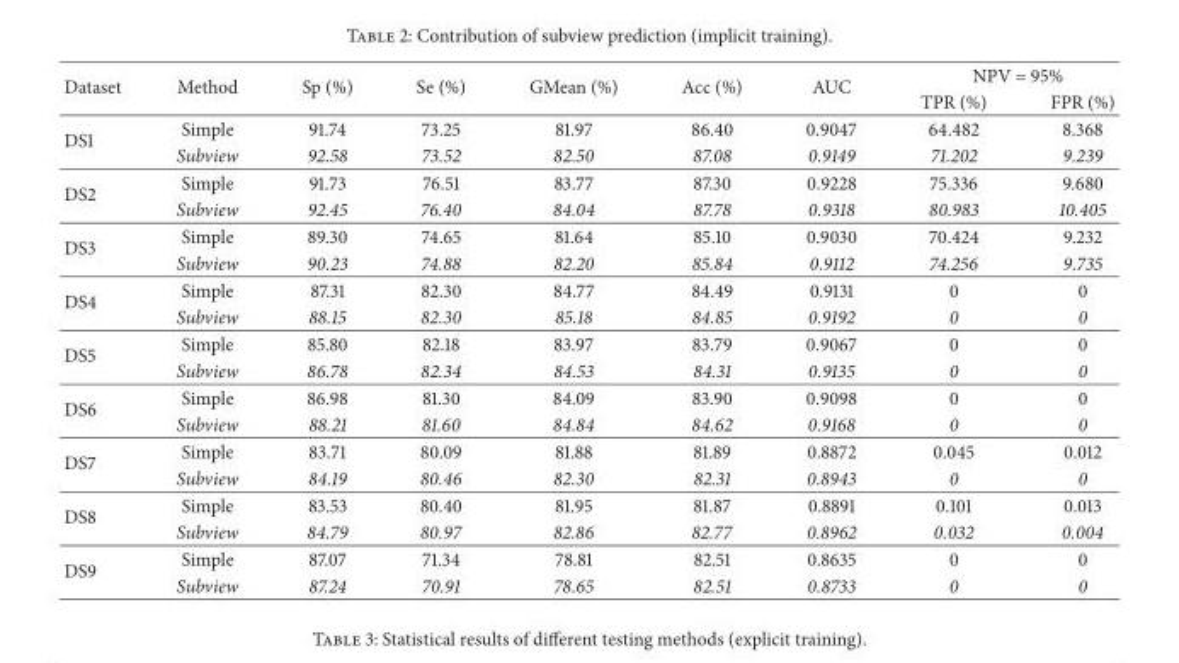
<table><thead><tr><td rowspan="2">Dataset</td><td rowspan="2">Method</td><td rowspan="2">Sp (%)</td><td rowspan="2">Se (%)</td><td rowspan="2">GMean (%)</td><td rowspan="2">Acc (%)</td><td rowspan="2">AUC</td><td colspan="2">NPV = 95%</td></tr><tr><td>TPR (%)</td><td>FPR (%)</td></tr></thead><tbody><tr><td rowspan="2">DS1</td><td>Simple</td><td>91.74</td><td>73.25</td><td>81.97</td><td>86.40</td><td>0.9047</td><td>64.482</td><td>8.368</td></tr><tr><td>Subview</td><td>92.58</td><td>73.52</td><td>82.50</td><td>87.08</td><td>0.9149</td><td>71.202</td><td>9.239</td></tr><tr><td rowspan="2">DS2</td><td>Simple</td><td>91.73</td><td>76.51</td><td>83.77</td><td>87.30</td><td>0.9228</td><td>75.336</td><td>9.680</td></tr><tr><td>Subview</td><td>92.45</td><td>76.40</td><td>84.04</td><td>87.78</td><td>0.9318</td><td>80.983</td><td>10.405</td></tr><tr><td rowspan="2">DS3</td><td>Simple</td><td>89.30</td><td>74.65</td><td>81.64</td><td>85.10</td><td>0.9030</td><td>70.424</td><td>9.232</td></tr><tr><td>Subview</td><td>90.23</td><td>74.88</td><td>82.20</td><td>85.84</td><td>0.9112</td><td>74.256</td><td>9.735</td></tr><tr><td rowspan="2">DS4</td><td>Simple</td><td>87.31</td><td>82.30</td><td>84.77</td><td>84.49</td><td>0.9131</td><td>0</td><td>0</td></tr><tr><td>Subview</td><td>88.15</td><td>82.30</td><td>85.18</td><td>84.85</td><td>0.9192</td><td>0</td><td>0</td></tr><tr><td rowspan="2">DS5</td><td>Simple</td><td>85.80</td><td>82.18</td><td>83.97</td><td>83.79</td><td>0.9067</td><td>0</td><td>0</td></tr><tr><td>Subview</td><td>86.78</td><td>82.34</td><td>84.53</td><td>84.31</td><td>0.9135</td><td>0</td><td>0</td></tr><tr><td rowspan="2">DS6</td><td>Simple</td><td>86.98</td><td>81.30</td><td>84.09</td><td>83.90</td><td>0.9098</td><td>0</td><td>0</td></tr><tr><td>Subview</td><td>88.21</td><td>81.60</td><td>84.84</td><td>84.62</td><td>0.9168</td><td>0</td><td>0</td></tr><tr><td rowspan="2">DS7</td><td>Simple</td><td>83.71</td><td>80.09</td><td>81.88</td><td>81.89</td><td>0.8872</td><td>0.045</td><td>0.012</td></tr><tr><td>Subview</td><td>84.19</td><td>80.46</td><td>82.30</td><td>82.31</td><td>0.8943</td><td>0</td><td>0</td></tr><tr><td rowspan="2">DS8</td><td>Simple</td><td>83.53</td><td>80.40</td><td>81.95</td><td>81.87</td><td>0.8891</td><td>0.101</td><td>0.013</td></tr><tr><td>Subview</td><td>84.79</td><td>80.97</td><td>82.86</td><td>82.77</td><td>0.8962</td><td>0.032</td><td>0.004</td></tr><tr><td rowspan="2">DS9</td><td>Simple</td><td>87.07</td><td>71.34</td><td>78.81</td><td>82.51</td><td>0.8635</td><td>0</td><td>0</td></tr><tr><td>Subview</td><td>87.24</td><td>70.91</td><td>78.65</td><td>82.51</td><td>0.8733</td><td>0</td><td>0</td></tr></tbody></table>